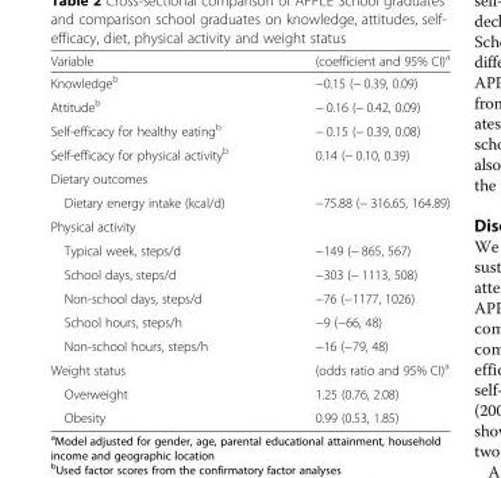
<table><thead><tr><td>Variable</td><td>(coefficient and 95% CI)<sup>a</sup></td></tr></thead><tbody><tr><td>Knowledge<sup>b</sup></td><td>−0.15 (− 0.39, 0.09)</td></tr><tr><td>Attitude<sup>b</sup></td><td>− 0.16 (− 0.42, 0.09)</td></tr><tr><td>Self-efficacy for healthy eating<sup>b</sup></td><td>− 0.15 (− 0.39, 0.08)</td></tr><tr><td>Self-efficacy for physical activity<sup>b</sup></td><td>0.14 (− 0.10, 0.39)</td></tr><tr><td colspan="2">Dietary outcomes</td></tr><tr><td>Dietary energy intake (kcal/d)</td><td>−75.88 (− 316.65, 164.89)</td></tr><tr><td colspan="2">Physical activity</td></tr><tr><td>Typical week, steps/d</td><td>−149 (− 865, 567)</td></tr><tr><td>School days, steps/d</td><td>−303 (− 1113, 508)</td></tr><tr><td>Non-school days, steps/d</td><td>−76 (−1177, 1026)</td></tr><tr><td>School hours, steps/h</td><td>−9 (−66, 48)</td></tr><tr><td>Non-school hours, steps/h</td><td>−16 (−79, 48)</td></tr><tr><td>Weight status</td><td>(odds ratio and 95% CI)<sup>a</sup></td></tr><tr><td>Overweight</td><td>1.25 (0.76, 2.08)</td></tr><tr><td>Obesity</td><td>0.99 (0.53, 1.85)</td></tr></tbody></table>